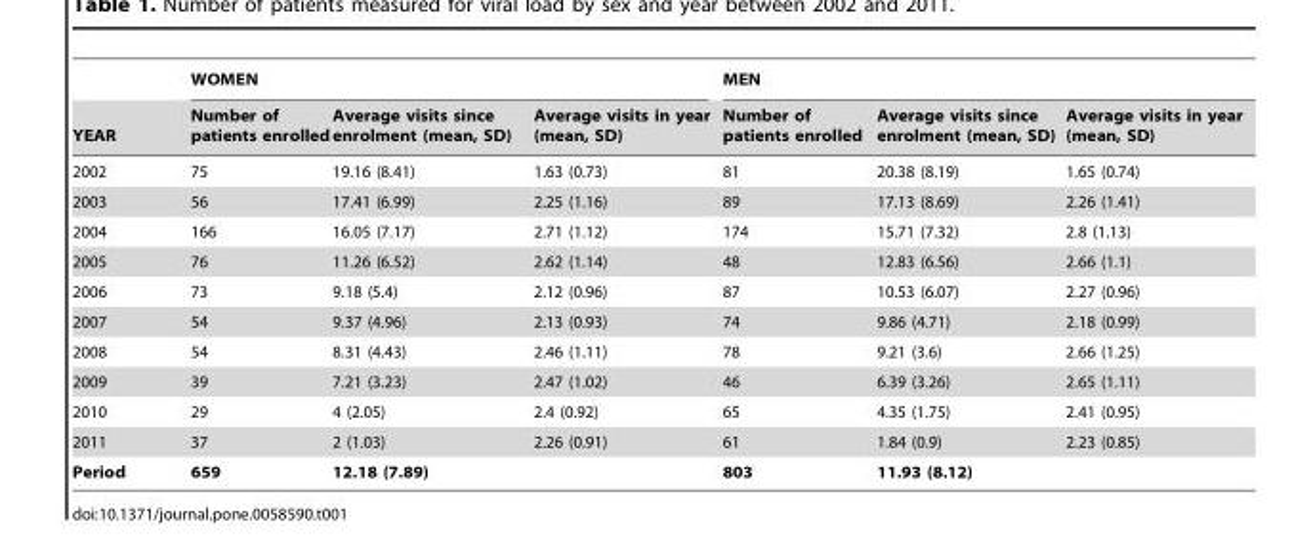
<table><thead><tr><td rowspan="2">YEAR</td><td colspan="3">WOMEN</td><td colspan="3">MEN</td></tr><tr><td>Number of patients enrolled</td><td>Average visits since enrolment (mean, SD)</td><td>Average visits in year (mean, SD)</td><td>Number of patients enrolled</td><td>Average visits since enrolment (mean, SD)</td><td>Average visits in year (mean, SD)</td></tr></thead><tbody><tr><td>2002</td><td>75</td><td>19.16 (8.41)</td><td>1.63 (0.73)</td><td>81</td><td>20.38 (8.19)</td><td>1.65 (0.74)</td></tr><tr><td>2003</td><td>56</td><td>17.41 (6.99)</td><td>2.25 (1.16)</td><td>89</td><td>17.13 (8.69)</td><td>2.26 (1.41)</td></tr><tr><td>2004</td><td>166</td><td>16.05 (7.17)</td><td>2.71 (1.12)</td><td>174</td><td>15.71 (7.32)</td><td>2.8 (1.13)</td></tr><tr><td>2005</td><td>76</td><td>11.26 (6.52)</td><td>2.62 (1.14)</td><td>48</td><td>12.83 (6.56)</td><td>2.66 (1.1)</td></tr><tr><td>2006</td><td>73</td><td>9.18 (5.4)</td><td>2.12 (0.96)</td><td>87</td><td>10.53 (6.07)</td><td>2.27 (0.96)</td></tr><tr><td>2007</td><td>54</td><td>9.37 (4.96)</td><td>2.13 (0.93)</td><td>74</td><td>9.86 (4.71)</td><td>2.18 (0.99)</td></tr><tr><td>2008</td><td>54</td><td>8.31 (4.43)</td><td>2.46 (1.11)</td><td>78</td><td>9.21 (3.6)</td><td>2.66 (1.25)</td></tr><tr><td>2009</td><td>39</td><td>7.21 (3.23)</td><td>2.47 (1.02)</td><td>46</td><td>6.39 (3.26)</td><td>2.65 (1.11)</td></tr><tr><td>2010</td><td>29</td><td>4 (2.05)</td><td>2.4 (0.92)</td><td>65</td><td>4.35 (1.75)</td><td>2.41 (0.95)</td></tr><tr><td>2011</td><td>37</td><td>2 (1.03)</td><td>2.26 (0.91)</td><td>61</td><td>1.84 (0.9)</td><td>2.23 (0.85)</td></tr><tr><td>Period</td><td>659</td><td>12.18 (7.89)</td><td></td><td>803</td><td>11.93 (8.12)</td><td></td></tr></tbody></table>